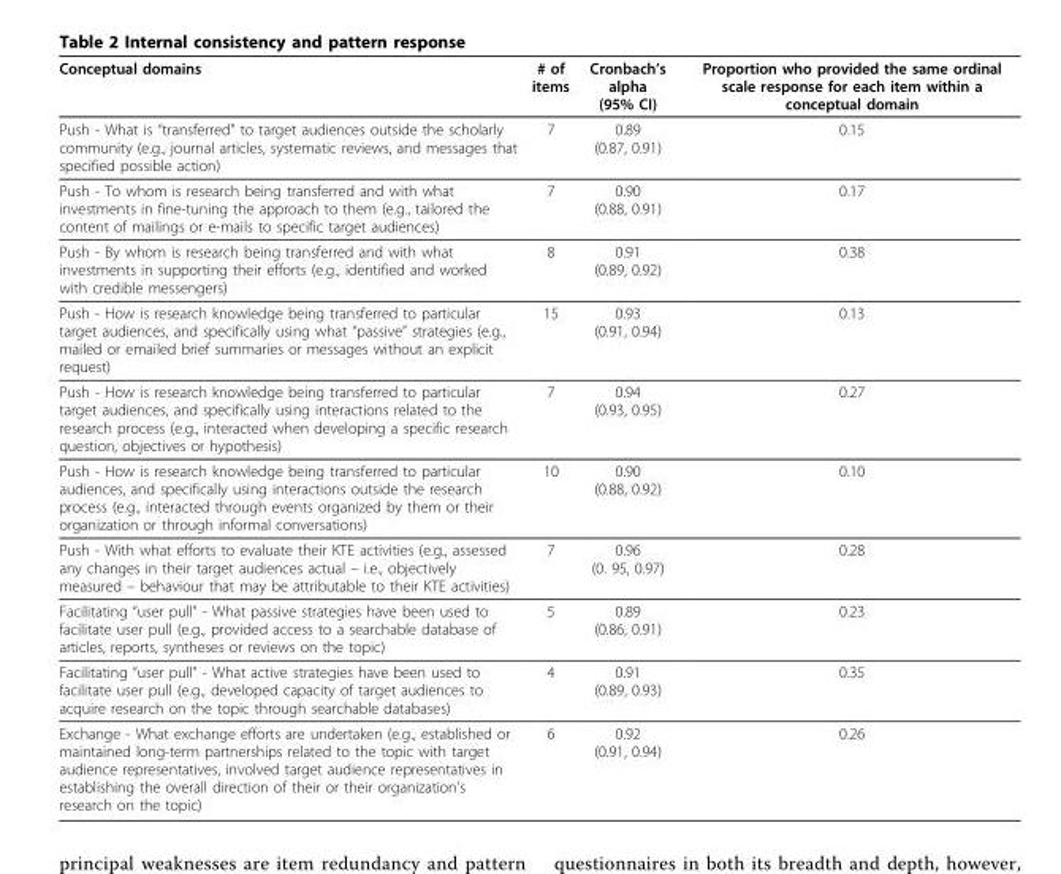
<table><thead><tr><td>Conceptual domains</td><td># of items</td><td>Cronbach’s alpha (95% CI)</td><td>Proportion who provided the same ordinal scale response for each item within a conceptual domain</td></tr></thead><tbody><tr><td>Push - What is “transferred” to target audiences outside the scholarly community (e.g., journal articles, systematic reviews, and messages that specified possible action)</td><td>7</td><td>0.89 (0.87, 0.91)</td><td>0.15</td></tr><tr><td>Push - To whom is research being transferred and with what investments in fine-tuning the approach to them (e.g., tailored the content of mailings or e-mails to specific target audiences)</td><td>7</td><td>0.90 (0.88, 0.91)</td><td>0.17</td></tr><tr><td>Push - By whom is research being transferred and with what investments in supporting their efforts (e.g., identified and worked with credible messengers)</td><td>8</td><td>0.91 (0.89, 0.92)</td><td>0.38</td></tr><tr><td>Push - How is research knowledge being transferred to particular target audiences, and specifically using what “passive” strategies (e.g., mailed or emailed brief summaries or messages without an explicit request)</td><td>15</td><td>0.93 (0.91, 0.94)</td><td>0.13</td></tr><tr><td>Push - How is research knowledge being transferred to particular target audiences, and specifically using interactions related to the research process (e.g., interacted when developing a specific research question, objectives or hypothesis)</td><td>7</td><td>0.94 (0.93, 0.95)</td><td>0.27</td></tr><tr><td>Push - How is research knowledge being transferred to particular audiences, and specifically using interactions outside the research process (e.g., interacted through events organized by them or their organization or through informal conversations)</td><td>10</td><td>0.90 (0.88, 0.92)</td><td>0.10</td></tr><tr><td>Push - With what efforts to evaluate their KTE activities (e.g., assessed any changes in their target audiences actual – i.e., objectively measured – behaviour that may be attributable to their KTE activities)</td><td>7</td><td>0.96 (0. 95, 0.97)</td><td>0.28</td></tr><tr><td>Facilitating “user pull” - What passive strategies have been used to facilitate user pull (e.g., provided access to a searchable database of articles, reports, syntheses or reviews on the topic)</td><td>5</td><td>0.89 (0.86, 0.91)</td><td>0.23</td></tr><tr><td>Facilitating “user pull” - What active strategies have been used to facilitate user pull (e.g., developed capacity of target audiences to acquire research on the topic through searchable databases)</td><td>4</td><td>0.91 (0.89, 0.93)</td><td>0.35</td></tr><tr><td>Exchange - What exchange efforts are undertaken (e.g., established or maintained long-term partnerships related to the topic with target audience representatives, involved target audience representatives in establishing the overall direction of their or their organization’s research on the topic)</td><td>6</td><td>0.92 (0.91, 0.94)</td><td>0.26</td></tr></tbody></table>